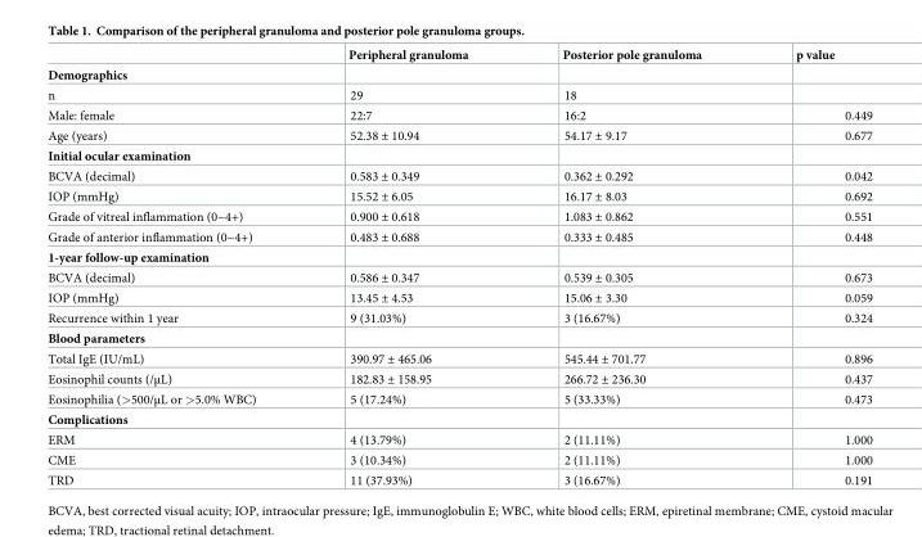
<table><thead><tr><td></td><td>Peripheral granuloma</td><td>Posterior pole granuloma</td><td>p value</td></tr></thead><tbody><tr><td colspan="4">Demographics</td></tr><tr><td>n</td><td>29</td><td>18</td><td></td></tr><tr><td>Male: female</td><td>22:7</td><td>16:2</td><td>0.449</td></tr><tr><td>Age (years)</td><td>52.38 ± 10.94</td><td>54.17 ± 9.17</td><td>0.677</td></tr><tr><td colspan="4">Initial ocular examination</td></tr><tr><td>BCVA (decimal)</td><td>0.583 ± 0.349</td><td>0.362 ± 0.292</td><td>0.042</td></tr><tr><td>IOP (mmHg)</td><td>15.52 ± 6.05</td><td>16.17 ± 8.03</td><td>0.692</td></tr><tr><td>Grade of vitreal inflammation (0~4+)</td><td>0.900 ± 0.618</td><td>1.083 ± 0.862</td><td>0.551</td></tr><tr><td>Grade of anterior inflammation (0~4+)</td><td>0.483 ± 0.688</td><td>0.333 ± 0.485</td><td>0.448</td></tr><tr><td colspan="4">1-year follow-up examination</td></tr><tr><td>BCVA (decimal)</td><td>0.586 ± 0.347</td><td>0.539 ± 0.305</td><td>0.673</td></tr><tr><td>IOP (mmHg)</td><td>13.45 ± 4.53</td><td>15.06 ± 3.30</td><td>0.059</td></tr><tr><td>Recurrence within 1 year</td><td>9 (31.03%)</td><td>3 (16.67%)</td><td>0.324</td></tr><tr><td colspan="4">Blood parameters</td></tr><tr><td>Total IgE (IU/mL)</td><td>390.97 ± 465.06</td><td>545.44 ± 701.77</td><td>0.896</td></tr><tr><td>Eosinophil counts (/μL)</td><td>182.83 ± 158.95</td><td>266.72 ± 236.30</td><td>0.437</td></tr><tr><td>Eosinophilia (&gt;500/μL or &gt;5.0% WBC)</td><td>5 (17.24%)</td><td>5 (33.33%)</td><td>0.473</td></tr><tr><td colspan="4">Complications</td></tr><tr><td>ERM</td><td>4 (13.79%)</td><td>2 (11.11%)</td><td>1.000</td></tr><tr><td>CME</td><td>3 (10.34%)</td><td>2 (11.11%)</td><td>1.000</td></tr><tr><td>TRD</td><td>11 (37.93%)</td><td>3 (16.67%)</td><td>0.191</td></tr></tbody></table>